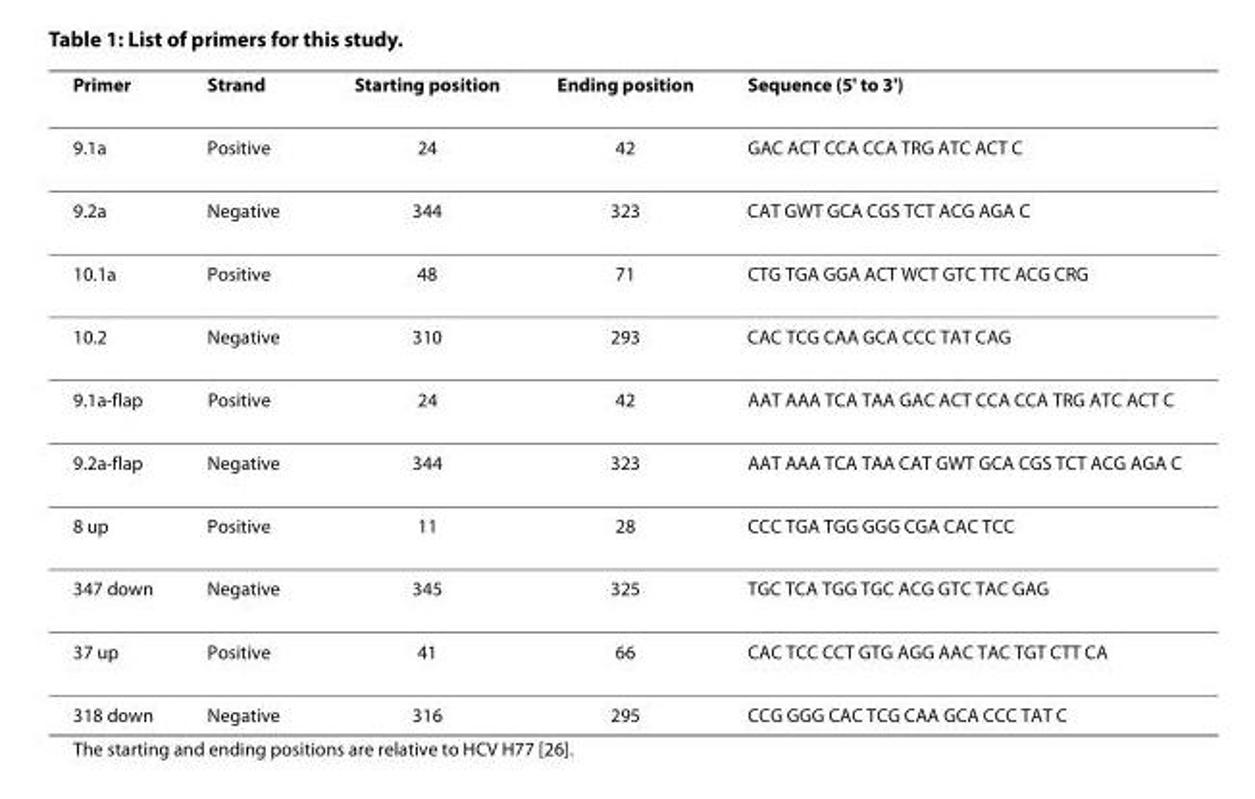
<table><thead><tr><td>Primer</td><td>Strand</td><td>Starting position</td><td>Ending position</td><td>Sequence (5&#x27; to 3&#x27;)</td></tr></thead><tbody><tr><td>9.1a</td><td>Positive</td><td>24</td><td>42</td><td>GAC ACT CCA CCA TRG ATC ACT C</td></tr><tr><td>9.2a</td><td>Negative</td><td>344</td><td>323</td><td>CAT GWT GCA CGS TCT ACG AGA C</td></tr><tr><td>10.1a</td><td>Positive</td><td>48</td><td>71</td><td>CTG TGA GGA ACT WCT GTC TTC ACG CRG</td></tr><tr><td>10.2</td><td>Negative</td><td>310</td><td>293</td><td>CAC TCG CAA GCA CCC TAT CAG</td></tr><tr><td>9.1a-flap</td><td>Positive</td><td>24</td><td>42</td><td>AAT AAA TCA TAA GAC ACT CCA CCA TRG ATC ACT C</td></tr><tr><td>9.2a-flap</td><td>Negative</td><td>344</td><td>323</td><td>AAT AAA TCA TAA CAT GWT GCA CGS TCT ACG AGA C</td></tr><tr><td>8 up</td><td>Positive</td><td>11</td><td>28</td><td>CCC TGA TGG GGG CGA CAC TCC</td></tr><tr><td>347 down</td><td>Negative</td><td>345</td><td>325</td><td>TGC TCA TGG TGC ACG GTC TAC GAG</td></tr><tr><td>37 up</td><td>Positive</td><td>41</td><td>66</td><td>CAC TCC CCT GTG AGG AAC TAC TGT CTT CA</td></tr><tr><td>318 down</td><td>Negative</td><td>316</td><td>295</td><td>CCG GGG CAC TCG CAA GCA CCC TAT C</td></tr></tbody></table>